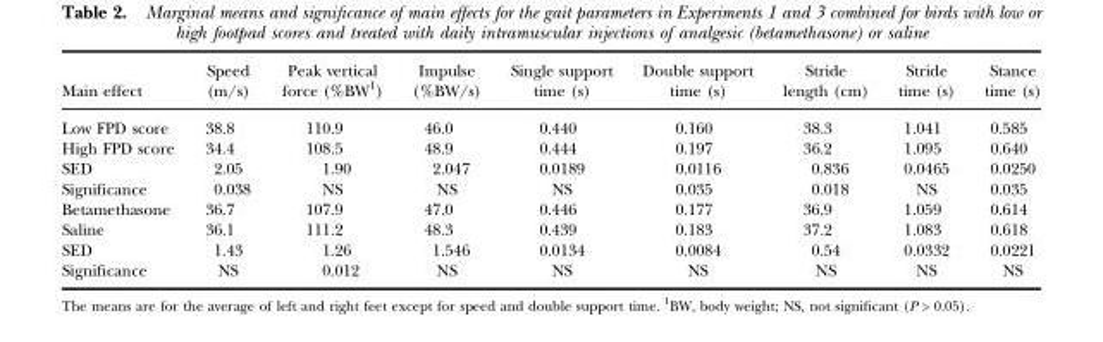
<table><thead><tr><td>Main effect</td><td>Speed (m/s)</td><td>Peak vertical force (%BW<sup>1</sup>)</td><td>Impulse (%BW/s)</td><td>Single support time (s)</td><td>Double support time (s)</td><td>Stride length (cm)</td><td>Stride time (s)</td><td>Stance time (s)</td></tr></thead><tbody><tr><td>Low FPD score</td><td>38.8</td><td>110.9</td><td>46.0</td><td>0.440</td><td>0.160</td><td>38.3</td><td>1.041</td><td>0.585</td></tr><tr><td>High FPD score</td><td>34.4</td><td>108.5</td><td>48.9</td><td>0.444</td><td>0.197</td><td>36.2</td><td>1.095</td><td>0.640</td></tr><tr><td>SED</td><td>2.05</td><td>1.90</td><td>2.047</td><td>0.0189</td><td>0.0116</td><td>0.836</td><td>0.0465</td><td>0.0250</td></tr><tr><td>Significance</td><td>0.038</td><td>NS</td><td>NS</td><td>NS</td><td>0.035</td><td>0.018</td><td>NS</td><td>0.035</td></tr><tr><td>Betamethasone</td><td>36.7</td><td>107.9</td><td>47.0</td><td>0.446</td><td>0.177</td><td>36.9</td><td>1.059</td><td>0.614</td></tr><tr><td>Saline</td><td>36.1</td><td>111.2</td><td>48.3</td><td>0.439</td><td>0.183</td><td>37.2</td><td>1.083</td><td>0.618</td></tr><tr><td>SED</td><td>1.43</td><td>1.26</td><td>1.546</td><td>0.0134</td><td>0.0084</td><td>0.54</td><td>0.0332</td><td>0.0221</td></tr><tr><td>Significance</td><td>NS</td><td>0.012</td><td>NS</td><td>NS</td><td>NS</td><td>NS</td><td>NS</td><td>NS</td></tr></tbody></table>